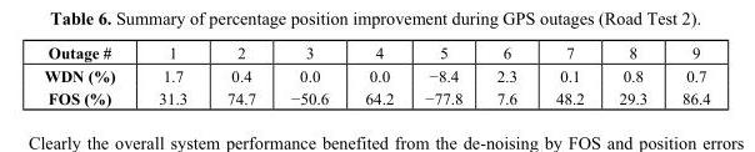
<table><thead><tr><td>Outage #</td><td>1</td><td>2</td><td>3</td><td>4</td><td>5</td><td>6</td><td>7</td><td>8</td><td>9</td></tr></thead><tbody><tr><td>WDN (%)</td><td>1.7</td><td>0.4</td><td>0.0</td><td>0.0</td><td>−8.4</td><td>2.3</td><td>0.1</td><td>0.8</td><td>0.7</td></tr><tr><td>FOS (%)</td><td>31.3</td><td>74.7</td><td>−50.6</td><td>64.2</td><td>−77.8</td><td>7.6</td><td>48.2</td><td>29.3</td><td>86.4</td></tr></tbody></table>